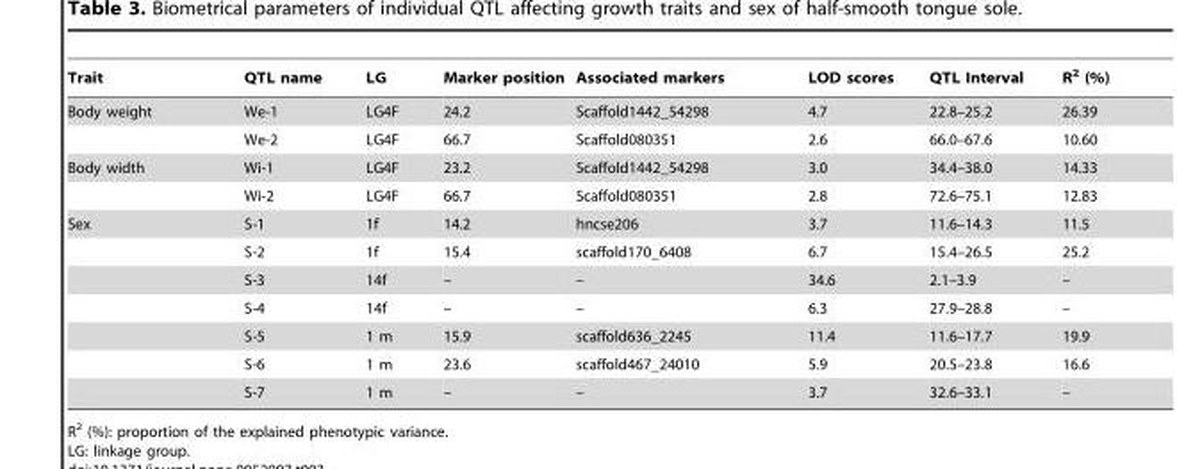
<table><thead><tr><td>Trait</td><td>QTL name</td><td>LG</td><td>Marker position</td><td>Associated markers</td><td>LOD scores</td><td>QTL Interval</td><td>R<sup>2</sup> (%)</td></tr></thead><tbody><tr><td rowspan="2">Body weight</td><td>We-1</td><td>LG4F</td><td>24.2</td><td>Scaffold1442_54298</td><td>4.7</td><td>22.8–25.2</td><td>26.39</td></tr><tr><td>We-2</td><td>LG4F</td><td>66.7</td><td>Scaffold080351</td><td>2.6</td><td>66.0–67.6</td><td>10.60</td></tr><tr><td rowspan="2">Body width</td><td>Wi-1</td><td>LG4F</td><td>23.2</td><td>Scaffold1442_54298</td><td>3.0</td><td>34.4–38.0</td><td>14.33</td></tr><tr><td>Wi-2</td><td>LG4F</td><td>66.7</td><td>Scaffold080351</td><td>2.8</td><td>72.6–75.1</td><td>12.83</td></tr><tr><td rowspan="7">Sex</td><td>S-1</td><td>1f</td><td>14.2</td><td>hncse206</td><td>3.7</td><td>11.6–14.3</td><td>11.5</td></tr><tr><td>S-2</td><td>1f</td><td>15.4</td><td>scaffold170_6408</td><td>6.7</td><td>15.4–26.5</td><td>25.2</td></tr><tr><td>S-3</td><td>14f</td><td>–</td><td>–</td><td>34.6</td><td>2.1–3.9</td><td>–</td></tr><tr><td>S-4</td><td>14f</td><td>–</td><td>–</td><td>6.3</td><td>27.9–28.8</td><td>–</td></tr><tr><td>S-5</td><td>1 m</td><td>15.9</td><td>scaffold636_2245</td><td>11.4</td><td>11.6–17.7</td><td>19.9</td></tr><tr><td>S-6</td><td>1 m</td><td>23.6</td><td>scaffold467_24010</td><td>5.9</td><td>20.5–23.8</td><td>16.6</td></tr><tr><td>S-7</td><td>1 m</td><td>–</td><td>–</td><td>3.7</td><td>32.6–33.1</td><td>–</td></tr></tbody></table>